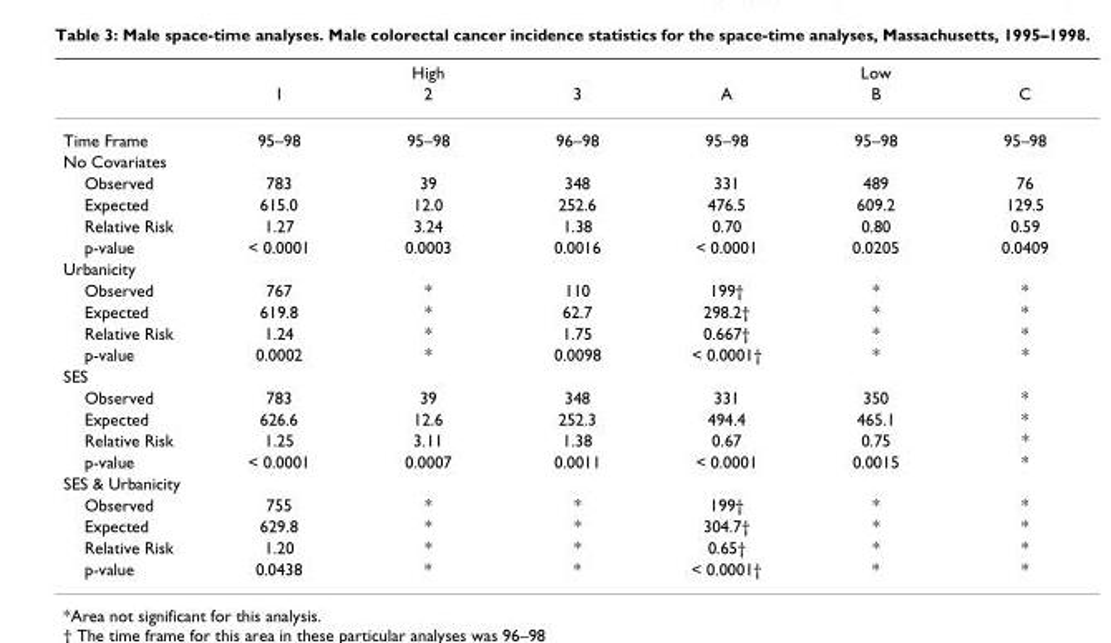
<table><thead><tr><td rowspan="2"></td><td colspan="3">High</td><td colspan="3">Low</td></tr><tr><td>1</td><td>2</td><td>3</td><td>A</td><td>B</td><td>C</td></tr></thead><tbody><tr><td>Time Frame</td><td>95–98</td><td>95–98</td><td>96–98</td><td>95–98</td><td>95–98</td><td>95–98</td></tr><tr><td colspan="7">No Covariates</td></tr><tr><td>Observed</td><td>783</td><td>39</td><td>348</td><td>331</td><td>489</td><td>76</td></tr><tr><td>Expected</td><td>615.0</td><td>12.0</td><td>252.6</td><td>476.5</td><td>609.2</td><td>129.5</td></tr><tr><td>Relative Risk</td><td>1.27</td><td>3.24</td><td>1.38</td><td>0.70</td><td>0.80</td><td>0.59</td></tr><tr><td>p-value</td><td>&lt; 0.0001</td><td>0.0003</td><td>0.0016</td><td>&lt; 0.0001</td><td>0.0205</td><td>0.0409</td></tr><tr><td colspan="7">Urbanicity</td></tr><tr><td>Observed</td><td>767</td><td>*</td><td>110</td><td>199†</td><td>*</td><td>*</td></tr><tr><td>Expected</td><td>619.8</td><td>*</td><td>62.7</td><td>298.2†</td><td>*</td><td>*</td></tr><tr><td>Relative Risk</td><td>1.24</td><td>*</td><td>1.75</td><td>0.667†</td><td>*</td><td>*</td></tr><tr><td>p-value</td><td>0.0002</td><td>*</td><td>0.0098</td><td>&lt; 0.0001†</td><td>*</td><td>*</td></tr><tr><td colspan="7">SES</td></tr><tr><td>Observed</td><td>783</td><td>39</td><td>348</td><td>331</td><td>350</td><td>*</td></tr><tr><td>Expected</td><td>626.6</td><td>12.6</td><td>252.3</td><td>494.4</td><td>465.1</td><td>*</td></tr><tr><td>Relative Risk</td><td>1.25</td><td>3.11</td><td>1.38</td><td>0.67</td><td>0.75</td><td>*</td></tr><tr><td>p-value</td><td>&lt; 0.0001</td><td>0.0007</td><td>0.0011</td><td>&lt; 0.0001</td><td>0.0015</td><td>*</td></tr><tr><td colspan="7">SES &amp; Urbanicity</td></tr><tr><td>Observed</td><td>755</td><td>*</td><td>*</td><td>199†</td><td>*</td><td>*</td></tr><tr><td>Expected</td><td>629.8</td><td>*</td><td>*</td><td>304.7†</td><td>*</td><td>*</td></tr><tr><td>Relative Risk</td><td>1.20</td><td>*</td><td>*</td><td>0.65†</td><td>*</td><td>*</td></tr><tr><td>p-value</td><td>0.0438</td><td>*</td><td>*</td><td>&lt; 0.0001†</td><td>*</td><td>*</td></tr></tbody></table>